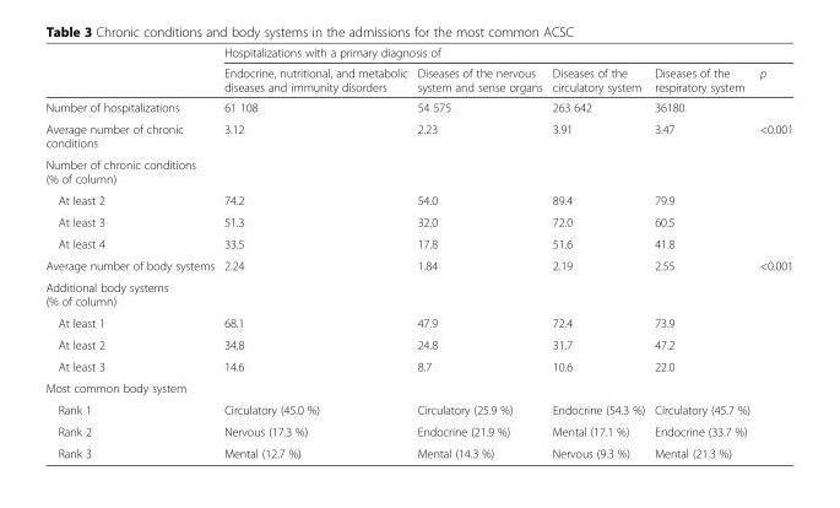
<table><thead><tr><td rowspan="2"></td><td colspan="5">Hospitalizations with a primary diagnosis of</td></tr><tr><td>Endocrine, nutritional, and metabolic diseases and immunity disorders</td><td>Diseases of the nervous system and sense organs</td><td>Diseases of the circulatory system</td><td>Diseases of the respiratory system</td><td>p</td></tr></thead><tbody><tr><td>Number of hospitalizations</td><td>61 108</td><td>54 575</td><td>263 642</td><td>36180</td><td></td></tr><tr><td>Average number of chronic conditions</td><td>3.12</td><td>2.23</td><td>3.91</td><td>3.47</td><td>&lt;0.001</td></tr><tr><td colspan="6">Number of chronic conditions (% of column)</td></tr><tr><td>At least 2</td><td>74.2</td><td>54.0</td><td>89.4</td><td>79.9</td><td></td></tr><tr><td>At least 3</td><td>51.3</td><td>32.0</td><td>72.0</td><td>60.5</td><td></td></tr><tr><td>At least 4</td><td>33.5</td><td>17.8</td><td>51.6</td><td>41.8</td><td></td></tr><tr><td>Average number of body systems</td><td>2.24</td><td>1.84</td><td>2.19</td><td>2.55</td><td>&lt;0.001</td></tr><tr><td colspan="6">Additional body systems (% of column)</td></tr><tr><td>At least 1</td><td>68.1</td><td>47.9</td><td>72.4</td><td>73.9</td><td></td></tr><tr><td>At least 2</td><td>34.8</td><td>24.8</td><td>31.7</td><td>47.2</td><td></td></tr><tr><td>At least 3</td><td>14.6</td><td>8.7</td><td>10.6</td><td>22.0</td><td></td></tr><tr><td colspan="6">Most common body system</td></tr><tr><td>Rank 1</td><td>Circulatory (45.0 %)</td><td>Circulatory (25.9 %)</td><td>Endocrine (54.3 %)</td><td>Circulatory (45.7 %)</td><td></td></tr><tr><td>Rank 2</td><td>Nervous (17.3 %)</td><td>Endocrine (21.9 %)</td><td>Mental (17.1 %)</td><td>Endocrine (33.7 %)</td><td></td></tr><tr><td>Rank 3</td><td>Mental (12.7 %)</td><td>Mental (14.3 %)</td><td>Nervous (9.3 %)</td><td>Mental (21.3 %)</td><td></td></tr></tbody></table>